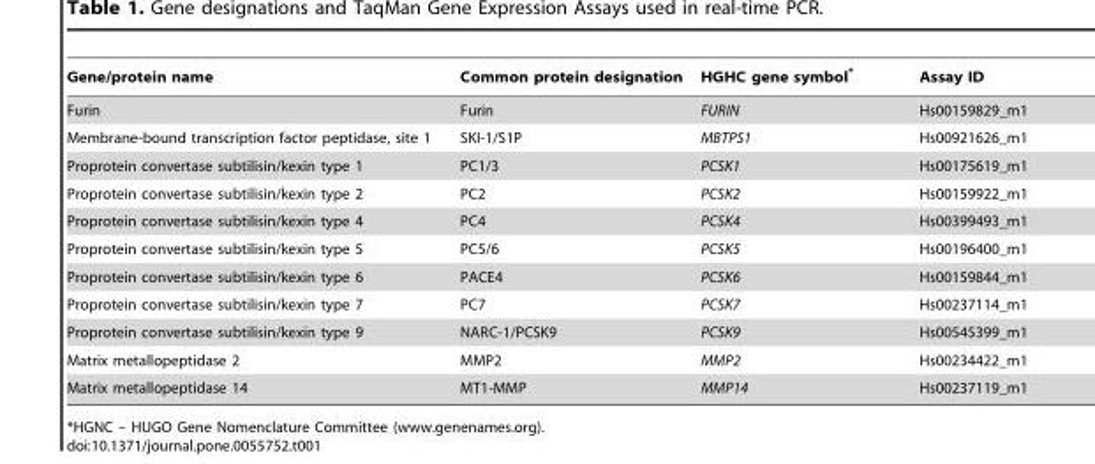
<table><thead><tr><td>Gene/protein name</td><td>Common protein designation</td><td>HGHC gene symbol*</td><td>Assay ID</td></tr></thead><tbody><tr><td>Furin</td><td>Furin</td><td>FURIN</td><td>Hs00159829_m1</td></tr><tr><td>Membrane-bound transcription factor peptidase, site 1</td><td>SKI-1/S1P</td><td>MBTPS1</td><td>Hs00921626_m1</td></tr><tr><td>Proprotein convertase subtilisin/kexin type 1</td><td>PC1/3</td><td>PCSK1</td><td>Hs00175619_m1</td></tr><tr><td>Proprotein convertase subtilisin/kexin type 2</td><td>PC2</td><td>PCSK2</td><td>Hs00159922_m1</td></tr><tr><td>Proprotein convertase subtilisin/kexin type 4</td><td>PC4</td><td>PCSK4</td><td>Hs00399493_m1</td></tr><tr><td>Proprotein convertase subtilisin/kexin type 5</td><td>PC5/6</td><td>PCSK5</td><td>Hs00196400_m1</td></tr><tr><td>Proprotein convertase subtilisin/kexin type 6</td><td>PACE4</td><td>PCSK6</td><td>Hs00159844_m1</td></tr><tr><td>Proprotein convertase subtilisin/kexin type 7</td><td>PC7</td><td>PCSK7</td><td>Hs00237114_m1</td></tr><tr><td>Proprotein convertase subtilisin/kexin type 9</td><td>NARC-1/PCSK9</td><td>PCSK9</td><td>Hs00545399_m1</td></tr><tr><td>Matrix metallopeptidase 2</td><td>MMP2</td><td>MMP2</td><td>Hs00234422_m1</td></tr><tr><td>Matrix metallopeptidase 14</td><td>MT1-MMP</td><td>MMP14</td><td>Hs00237119_m1</td></tr></tbody></table>